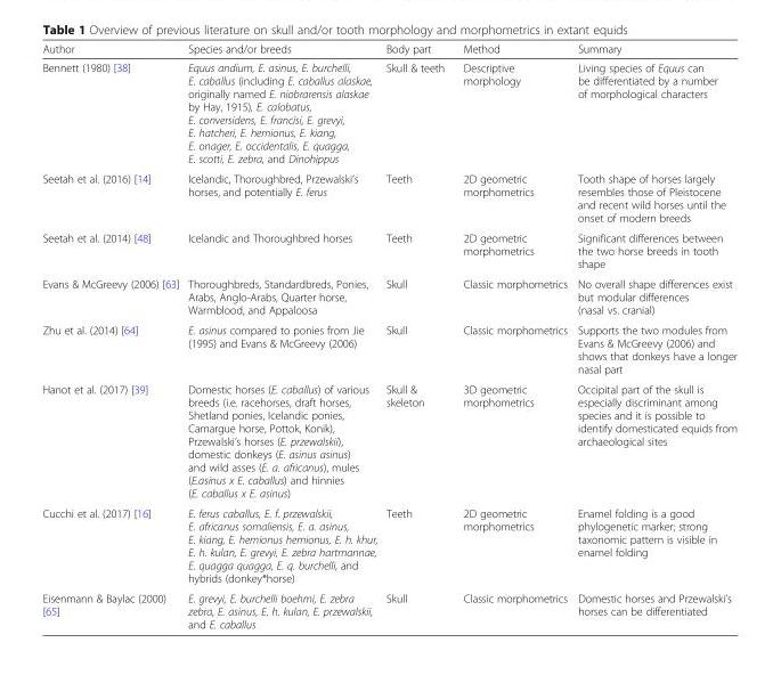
<table><thead><tr><td>Author</td><td>Species and/or breeds</td><td>Body part</td><td>Method</td><td>Summary</td></tr></thead><tbody><tr><td>Bennett (1980) [38]</td><td>Equus andium, E. asinus, E. burchelli, E. caballus (including E. caballus alaskae, originally named E. niobrarensis alaskae by Hay, 1915), E. calobatus, E. conversidens, E. francisi, E. grevyi, E. hatcheri, E. hemionus, E. kiang, E. onager, E. occidentalis, E. quagga, E. scotti, E. zebra, and Dinohippus</td><td>Skull &amp; teeth</td><td>Descriptive morphology</td><td>Living species of Equus can be differentiated by a number of morphological characters</td></tr><tr><td>Seetah et al. (2016) [14]</td><td>Icelandic, Thoroughbred, Przewalski’s horses, and potentially E. ferus</td><td>Teeth</td><td>2D geometric morphometrics</td><td>Tooth shape of horses largely resembles those of Pleistocene and recent wild horses until the onset of modern breeds</td></tr><tr><td>Seetah et al. (2014) [48]</td><td>Icelandic and Thoroughbred horses</td><td>Teeth</td><td>2D geometric morphometrics</td><td>Significant differences between the two horse breeds in tooth shape</td></tr><tr><td>Evans &amp; McGreevy (2006) [63]</td><td>Thoroughbreds, Standardbreds, Ponies, Arabs, Anglo-Arabs, Quarter horse, Warmblood, and Appaloosa</td><td>Skull</td><td>Classic morphometrics</td><td>No overall shape differences exist but modular differences (nasal vs. cranial)</td></tr><tr><td>Zhu et al. (2014) [64]</td><td>E. asinus compared to ponies from Jie (1995) and Evans &amp; McGreevy (2006)</td><td>Skull</td><td>Classic morphometrics</td><td>Supports the two modules from Evans &amp; McGreevy (2006) and shows that donkeys have a longer nasal part</td></tr><tr><td>Hanot et al. (2017) [39]</td><td>Domestic horses (E. caballus) of various breeds (i.e. racehorses, draft horses, Shetland ponies, Icelandic ponies, Camargue horse, Pottok, Konik), Przewalski’s horses (E. przewalskii), domestic donkeys (E. asinus asinus) and wild asses (E. a. africanus), mules (E.asinus x E. caballus) and hinnies (E. caballus x E. asinus)</td><td>Skull &amp; skeleton</td><td>3D geometric morphometrics</td><td>Occipital part of the skull is especially discriminant among species and it is possible to identify domesticated equids from archaeological sites</td></tr><tr><td>Cucchi et al. (2017) [16]</td><td>E. ferus caballus, E. f. przewalskii, E. africanus somaliensis, E. a. asinus, E. kiang, E. hemionus hemionus, E. h. khur, E. h. kulan, E. grevyi, E. zebra hartmannae, E. quagga quagga, E. q. burchelli, and hybrids (donkey*horse)</td><td>Teeth</td><td>2D geometric morphometrics</td><td>Enamel folding is a good phylogenetic marker; strong taxonomic pattern is visible in enamel folding</td></tr><tr><td>Eisenmann &amp; Baylac (2000) [65]</td><td>E. grevyi, E. burchelli boehmi, E. zebra zebra, E. asinus, E. h. kulan, E. przewalskii, and E. caballus</td><td>Skull</td><td>Classic morphometrics</td><td>Domestic horses and Przewalski’s horses can be differentiated</td></tr></tbody></table>